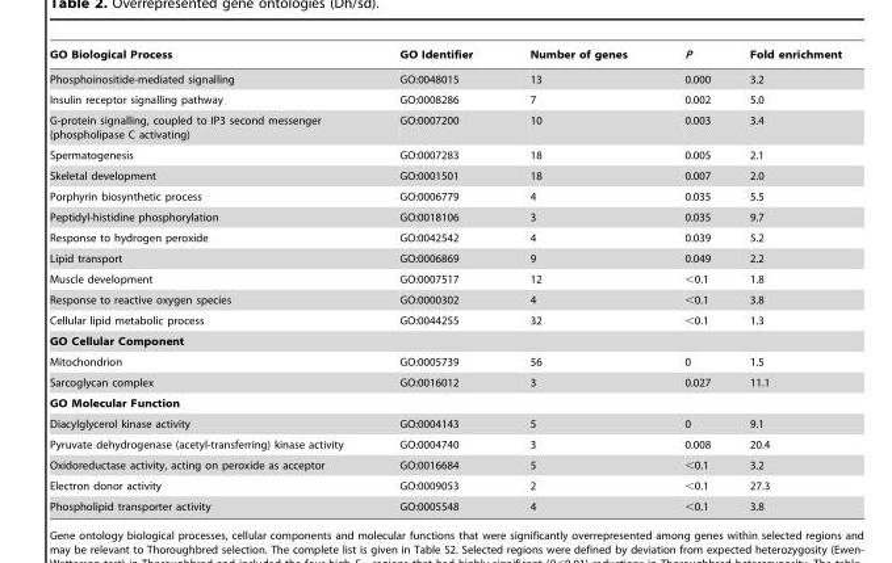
<table><thead><tr><td>GO Biological Process</td><td>GO Identifier</td><td>Number of genes</td><td>P</td><td>Fold enrichment</td></tr></thead><tbody><tr><td>Phosphoinositide-mediated signalling</td><td>GO:0048015</td><td>13</td><td>0.000</td><td>3.2</td></tr><tr><td>Insulin receptor signalling pathway</td><td>GO:0008286</td><td>7</td><td>0.002</td><td>5.0</td></tr><tr><td>G-protein signalling, coupled to IP3 second messenger (phospholipase C activating)</td><td>GO:0007200</td><td>10</td><td>0.003</td><td>3.4</td></tr><tr><td>Spermatogenesis</td><td>GO:0007283</td><td>18</td><td>0.005</td><td>2.1</td></tr><tr><td>Skeletal development</td><td>GO:0001501</td><td>18</td><td>0.007</td><td>2.0</td></tr><tr><td>Porphyrin biosynthetic process</td><td>GO:0006779</td><td>4</td><td>0.035</td><td>5.5</td></tr><tr><td>Peptidyl-histidine phosphorylation</td><td>GO:0018106</td><td>3</td><td>0.035</td><td>9.7</td></tr><tr><td>Response to hydrogen peroxide</td><td>GO:0042542</td><td>4</td><td>0.039</td><td>5.2</td></tr><tr><td>Lipid transport</td><td>GO:0006869</td><td>9</td><td>0.049</td><td>2.2</td></tr><tr><td>Muscle development</td><td>GO:0007517</td><td>12</td><td>&lt;0.1</td><td>1.8</td></tr><tr><td>Response to reactive oxygen species</td><td>GO:0000302</td><td>4</td><td>&lt;0.1</td><td>3.8</td></tr><tr><td>Cellular lipid metabolic process</td><td>GO:0044255</td><td>32</td><td>&lt;0.1</td><td>1.3</td></tr><tr><td colspan="5">GO Cellular Component</td></tr><tr><td>Mitochondrion</td><td>GO:0005739</td><td>56</td><td>0</td><td>1.5</td></tr><tr><td>Sarcoglycan complex</td><td>GO:0016012</td><td>3</td><td>0.027</td><td>11.1</td></tr><tr><td colspan="5">GO Molecular Function</td></tr><tr><td>Diacylglycerol kinase activity</td><td>GO:0004143</td><td>5</td><td>0</td><td>9.1</td></tr><tr><td>Pyruvate dehydrogenase (acetyl-transferring) kinase activity</td><td>GO:0004740</td><td>3</td><td>0.008</td><td>20.4</td></tr><tr><td>Oxidoreductase activity, acting on peroxide as acceptor</td><td>GO:0016684</td><td>5</td><td>&lt;0.1</td><td>3.2</td></tr><tr><td>Electron donor activity</td><td>GO:0009053</td><td>2</td><td>&lt;0.1</td><td>27.3</td></tr><tr><td>Phospholipid transporter activity</td><td>GO:0005548</td><td>4</td><td>&lt;0.1</td><td>3.8</td></tr></tbody></table>